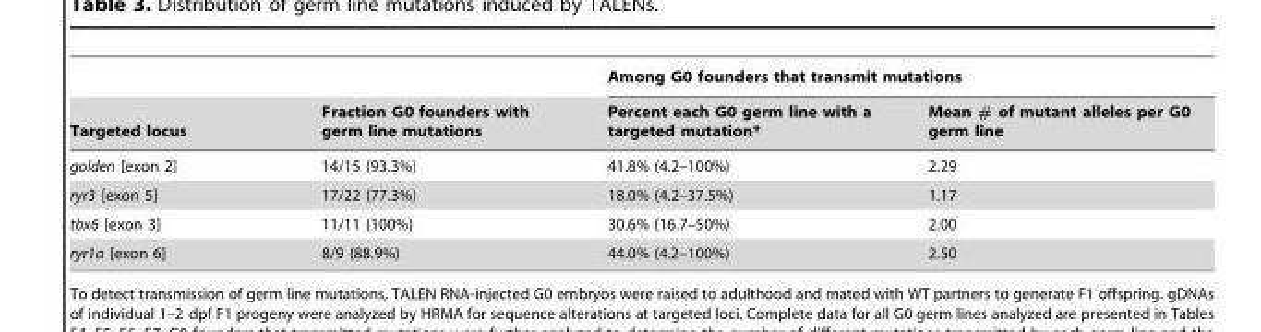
<table><thead><tr><td rowspan="2">Targeted locus</td><td rowspan="2">Fraction G0 founders with germ line mutations</td><td colspan="2">Among G0 founders that transmit mutations</td></tr><tr><td>Percent each G0 germ line with a targeted mutation*</td><td>Mean # of mutant alleles per G0 germ line</td></tr></thead><tbody><tr><td>golden [exon 2]</td><td>14/15 (93.3%)</td><td>41.8% (4.2–100%)</td><td>2.29</td></tr><tr><td>ryr3 [exon 5]</td><td>17/22 (77.3%)</td><td>18.0% (4.2–37.5%)</td><td>1.17</td></tr><tr><td>tbx6 [exon 3]</td><td>11/11 (100%)</td><td>30.6% (16.7–50%)</td><td>2.00</td></tr><tr><td>ryr1a [exon 6]</td><td>8/9 (88.9%)</td><td>44.0% (4.2–100%)</td><td>2.50</td></tr></tbody></table>